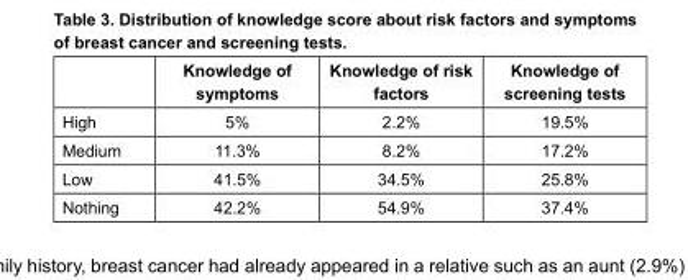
<table><thead><tr><td></td><td>Knowledge of symptoms</td><td>Knowledge of risk factors</td><td>Knowledge of screening tests</td></tr></thead><tbody><tr><td>High</td><td>5%</td><td>2.2%</td><td>19.5%</td></tr><tr><td>Medium</td><td>11.3%</td><td>8.2%</td><td>17.2%</td></tr><tr><td>Low</td><td>41.5%</td><td>34.5%</td><td>25.8%</td></tr><tr><td>Nothing</td><td>42.2%</td><td>54.9%</td><td>37.4%</td></tr></tbody></table>